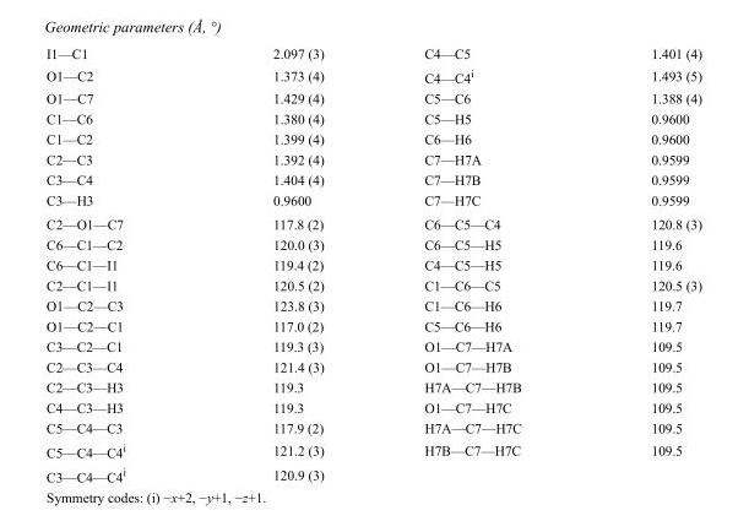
<table><tbody><tr><td>I1—C1</td><td>2.097 (3)</td><td>C4—C5</td><td>1.401 (4)</td></tr><tr><td>O1—C2</td><td>1.373 (4)</td><td>C4—C4<sup>i</sup></td><td>1.493 (5)</td></tr><tr><td>O1—C7</td><td>1.429 (4)</td><td>C5—C6</td><td>1.388 (4)</td></tr><tr><td>C1—C6</td><td>1.380 (4)</td><td>C5—H5</td><td>0.9600</td></tr><tr><td>C1—C2</td><td>1.399 (4)</td><td>C6—H6</td><td>0.9600</td></tr><tr><td>C2—C3</td><td>1.392 (4)</td><td>C7—H7A</td><td>0.9599</td></tr><tr><td>C3—C4</td><td>1.404 (4)</td><td>C7—H7B</td><td>0.9599</td></tr><tr><td>C3—H3</td><td>0.9600</td><td>C7—H7C</td><td>0.9599</td></tr><tr><td>C2—O1—C7</td><td>117.8 (2)</td><td>C6—C5—C4</td><td>120.8 (3)</td></tr><tr><td>C6—C1—C2</td><td>120.0 (3)</td><td>C6—C5—H5</td><td>119.6</td></tr><tr><td>C6—C1—I1</td><td>119.4 (2)</td><td>C4—C5—H5</td><td>119.6</td></tr><tr><td>C2—C1—I1</td><td>120.5 (2)</td><td>C1—C6—C5</td><td>120.5 (3)</td></tr><tr><td>O1—C2—C3</td><td>123.8 (3)</td><td>C1—C6—H6</td><td>119.7</td></tr><tr><td>O1—C2—C1</td><td>117.0 (2)</td><td>C5—C6—H6</td><td>119.7</td></tr><tr><td>C3—C2—C1</td><td>119.3 (3)</td><td>O1—C7—H7A</td><td>109.5</td></tr><tr><td>C2—C3—C4</td><td>121.4 (3)</td><td>O1—C7—H7B</td><td>109.5</td></tr><tr><td>C2—C3—H3</td><td>119.3</td><td>H7A—C7—H7B</td><td>109.5</td></tr><tr><td>C4—C3—H3</td><td>119.3</td><td>O1—C7—H7C</td><td>109.5</td></tr><tr><td>C5—C4—C3</td><td>117.9 (2)</td><td>H7A—C7—H7C</td><td>109.5</td></tr><tr><td>C5—C4—C4<sup>i</sup></td><td>121.2 (3)</td><td>H7B—C7—H7C</td><td>109.5</td></tr><tr><td>C3—C4—C4<sup>i</sup></td><td>120.9 (3)</td><td></td><td></td></tr></tbody></table>